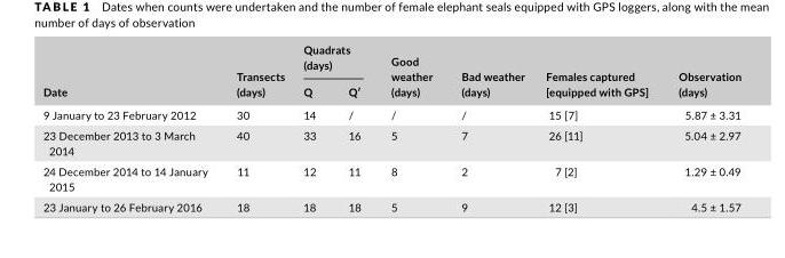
<table><thead><tr><td rowspan="2">Date</td><td rowspan="2">Transects (days)</td><td colspan="2">Quadrats (days)</td><td rowspan="2">Good weather (days)</td><td rowspan="2">Bad weather (days)</td><td rowspan="2">Females captured [equipped with GPS]</td><td rowspan="2">Observation (days)</td></tr><tr><td>Q</td><td>Q′</td></tr></thead><tbody><tr><td>9 January to 23 February 2012</td><td>30</td><td>14</td><td>/</td><td>/</td><td>/</td><td>15 [7]</td><td>5.87 ± 3.31</td></tr><tr><td>23 December 2013 to 3 March 2014</td><td>40</td><td>33</td><td>16</td><td>5</td><td>7</td><td>26 [11]</td><td>5.04 ± 2.97</td></tr><tr><td>24 December 2014 to 14 January 2015</td><td>11</td><td>12</td><td>11</td><td>8</td><td>2</td><td>7 [2]</td><td>1.29 ± 0.49</td></tr><tr><td>23 January to 26 February 2016</td><td>18</td><td>18</td><td>18</td><td>5</td><td>9</td><td>12 [3]</td><td>4.5 ± 1.57</td></tr></tbody></table>